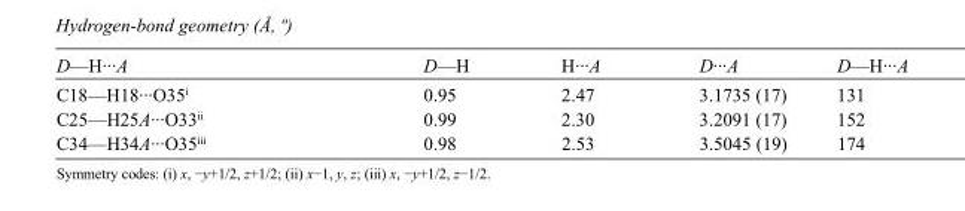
<table><tbody><tr><td>D—H···A</td><td>D—H</td><td>H···A</td><td>D···A</td><td>D—H···A</td></tr><tr><td>C18—H18···O35<sup>i</sup></td><td>0.95</td><td>2.47</td><td>3.1735 (17)</td><td>131</td></tr><tr><td>C25—H25A···O33<sup>ii</sup></td><td>0.99</td><td>2.30</td><td>3.2091 (17)</td><td>152</td></tr><tr><td>C34—H34A···O35<sup>iii</sup></td><td>0.98</td><td>2.53</td><td>3.5045 (19)</td><td>174</td></tr></tbody></table>